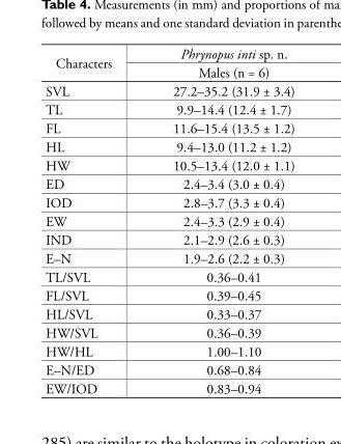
<table><tbody><tr><td rowspan="2">Characters</td><td>Phrynopus inti sp. n.</td></tr><tr><td>Males (n = 6)</td></tr><tr><td>SVL</td><td>27.2–35.2 (31.9 ± 3.4)</td></tr><tr><td>TL</td><td>9.9–14.4 (12.4 ± 1.7)</td></tr><tr><td>FL</td><td>11.6–15.4 (13.5 ± 1.2)</td></tr><tr><td>HL</td><td>9.4–13.0 (11.2 ± 1.2)</td></tr><tr><td>HW</td><td>10.5–13.4 (12.0 ± 1.1)</td></tr><tr><td>ED</td><td>2.4–3.4 (3.0 ± 0.4)</td></tr><tr><td>IOD</td><td>2.8–3.7 (3.3 ± 0.4)</td></tr><tr><td>EW</td><td>2.4–3.3 (2.9 ± 0.4)</td></tr><tr><td>IND</td><td>2.1–2.9 (2.6 ± 0.3)</td></tr><tr><td>E–N</td><td>1.9–2.6 (2.2 ± 0.3)</td></tr><tr><td>TL/SVL</td><td>0.36–0.41</td></tr><tr><td>FL/SVL</td><td>0.39–0.45</td></tr><tr><td>HL/SVL</td><td>0.33–0.37</td></tr><tr><td>HW/SVL</td><td>0.36–0.39</td></tr><tr><td>HW/HL</td><td>1.00–1.10</td></tr><tr><td>E–N/ED</td><td>0.68–0.84</td></tr><tr><td>EW/IOD</td><td>0.83–0.94</td></tr></tbody></table>